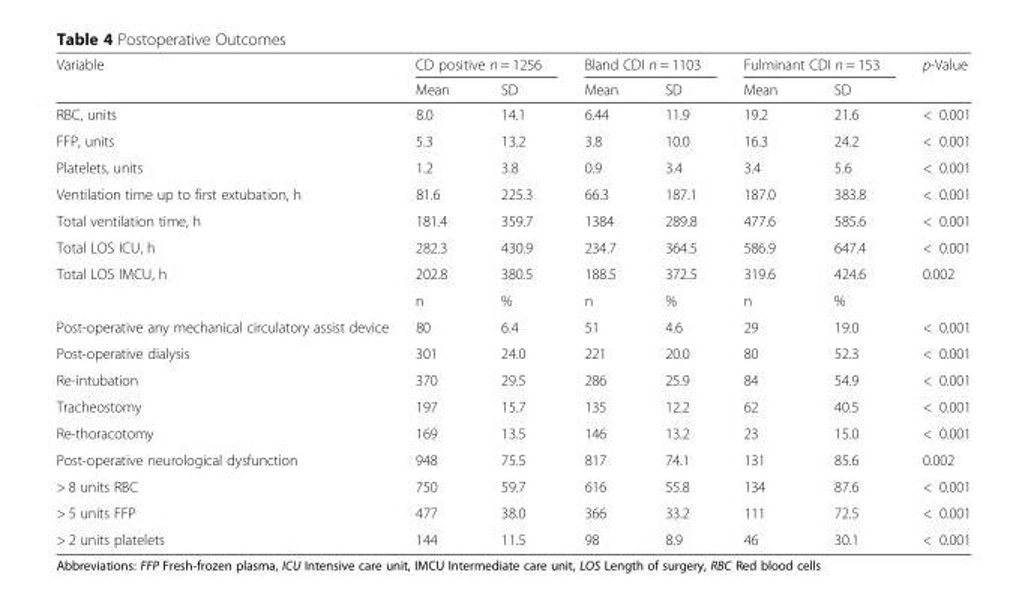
<table><thead><tr><td rowspan="2">Variable</td><td colspan="2">CD positive n = 1256</td><td colspan="2">Bland CDI n = 1103</td><td colspan="2">Fulminant CDI n = 153</td><td rowspan="2">p-Value</td></tr><tr><td>Mean</td><td>SD</td><td>Mean</td><td>SD</td><td>Mean</td><td>SD</td></tr></thead><tbody><tr><td>RBC, units</td><td>8.0</td><td>14.1</td><td>6.44</td><td>11.9</td><td>19.2</td><td>21.6</td><td>&lt; 0.001</td></tr><tr><td>FFP, units</td><td>5.3</td><td>13.2</td><td>3.8</td><td>10.0</td><td>16.3</td><td>24.2</td><td>&lt; 0.001</td></tr><tr><td>Platelets, units</td><td>1.2</td><td>3.8</td><td>0.9</td><td>3.4</td><td>3.4</td><td>5.6</td><td>&lt; 0.001</td></tr><tr><td>Ventilation time up to first extubation, h</td><td>81.6</td><td>225.3</td><td>66.3</td><td>187.1</td><td>187.0</td><td>383.8</td><td>&lt; 0.001</td></tr><tr><td>Total ventilation time, h</td><td>181.4</td><td>359.7</td><td>1384</td><td>289.8</td><td>477.6</td><td>585.6</td><td>&lt; 0.001</td></tr><tr><td>Total LOS ICU, h</td><td>282.3</td><td>430.9</td><td>234.7</td><td>364.5</td><td>586.9</td><td>647.4</td><td>&lt; 0.001</td></tr><tr><td rowspan="2">Total LOS IMCU, h</td><td>202.8</td><td>380.5</td><td>188.5</td><td>372.5</td><td>319.6</td><td>424.6</td><td>0.002</td></tr><tr><td>n</td><td>%</td><td>n</td><td>%</td><td>n</td><td>%</td><td></td></tr><tr><td>Post-operative any mechanical circulatory assist device</td><td>80</td><td>6.4</td><td>51</td><td>4.6</td><td>29</td><td>19.0</td><td>&lt; 0.001</td></tr><tr><td>Post-operative dialysis</td><td>301</td><td>24.0</td><td>221</td><td>20.0</td><td>80</td><td>52.3</td><td>&lt; 0.001</td></tr><tr><td>Re-intubation</td><td>370</td><td>29.5</td><td>286</td><td>25.9</td><td>84</td><td>54.9</td><td>&lt; 0.001</td></tr><tr><td>Tracheostomy</td><td>197</td><td>15.7</td><td>135</td><td>12.2</td><td>62</td><td>40.5</td><td>&lt; 0.001</td></tr><tr><td>Re-thoracotomy</td><td>169</td><td>13.5</td><td>146</td><td>13.2</td><td>23</td><td>15.0</td><td>&lt; 0.001</td></tr><tr><td>Post-operative neurological dysfunction</td><td>948</td><td>75.5</td><td>817</td><td>74.1</td><td>131</td><td>85.6</td><td>0.002</td></tr><tr><td>&gt; 8 units RBC</td><td>750</td><td>59.7</td><td>616</td><td>55.8</td><td>134</td><td>87.6</td><td>&lt; 0.001</td></tr><tr><td>&gt; 5 units FFP</td><td>477</td><td>38.0</td><td>366</td><td>33.2</td><td>111</td><td>72.5</td><td>&lt; 0.001</td></tr><tr><td>&gt; 2 units platelets</td><td>144</td><td>11.5</td><td>98</td><td>8.9</td><td>46</td><td>30.1</td><td>&lt; 0.001</td></tr></tbody></table>